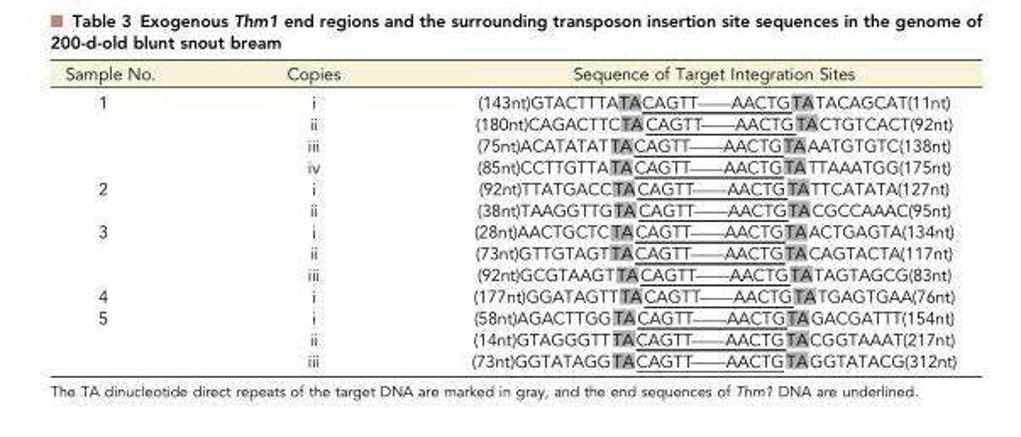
<table><thead><tr><td>Sample No.</td><td>Copies</td><td>Sequence of Target Integration Sites</td></tr></thead><tbody><tr><td rowspan="4">1</td><td>i</td><td>(143nt)GTACTTTATACAGTT——AACTGTATACAGCAT(11nt)</td></tr><tr><td>ii</td><td>(180nt)CAGACTTCTA CAGTT——AACTGTACTGTCACT(92nt)</td></tr><tr><td>iii</td><td>(75nt)ACATATATTACAGTT——AACTGTAAATGTGTC(138nt)</td></tr><tr><td>iv</td><td>(85nt)CCTTGTTATACAGTT——AACTGTATTAAATGG(175nt)</td></tr><tr><td rowspan="2">2</td><td>i</td><td>(92nt)TTATGACCTACAGTT——AACTGTATTCATATA(127nt)</td></tr><tr><td>ii</td><td>(38nt)TAAGGTTGTA CAGTT——AACTGTACGCCAAAC(95nt)</td></tr><tr><td rowspan="3">3</td><td>i</td><td>(28nt)AACTGCTCTACAGTT——AACTGTAACTGAGTA(134nt)</td></tr><tr><td>ii</td><td>(73nt)GTTGTAGTTACAGTT——AACTGTACAGTACTA(117nt)</td></tr><tr><td>iii</td><td>(92nt)GCGTAAGTTACAGTT——AACTGTATAGTAGCG(83nt)</td></tr><tr><td>4</td><td>i</td><td>(177nt)GGATAGTTTACAGTT——AACTGTATGAGTGAA(76nt)</td></tr><tr><td rowspan="3">5</td><td>i</td><td>(58nt)AGACTTGGTACAGTT——AACTGTAGACGATTT(154nt)</td></tr><tr><td>ii</td><td>(14nt)GTAGGGTTTACAGTT——AACTGTACGGTAAAT(217nt)</td></tr><tr><td>iii</td><td>(73nt)GGTATAGGTACAGTT——AACTGTAGGTATACG(312nt)</td></tr></tbody></table>